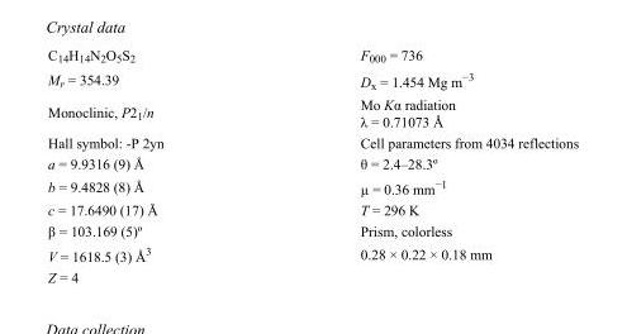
<table><tbody><tr><td>C<sub>14</sub>H<sub>14</sub>N<sub>2</sub>O<sub>5</sub>S<sub>2</sub></td><td>F000 = 736</td></tr><tr><td>M<sub>r</sub> = 354.39</td><td>D<sub>x</sub> = 1.454 Mg m<sup>−3</sup></td></tr><tr><td>Monoclinic, P2<sub>1</sub>/n</td><td>Mo Kα radiation λ = 0.71073 Å</td></tr><tr><td>Hall symbol: -P 2yn</td><td>Cell parameters from 4034 reflections</td></tr><tr><td>a = 9.9316 (9) Å</td><td>θ = 2.4–28.3º</td></tr><tr><td>b = 9.4828 (8) Å</td><td>µ = 0.36 mm<sup>−1</sup></td></tr><tr><td>c = 17.6490 (17) Å</td><td>T = 296 K</td></tr><tr><td>β = 103.169 (5)º</td><td>Prism, colorless</td></tr><tr><td>V = 1618.5 (3) Å<sup>3</sup></td><td>0.28 × 0.22 × 0.18 mm</td></tr><tr><td>Z = 4</td><td></td></tr></tbody></table>